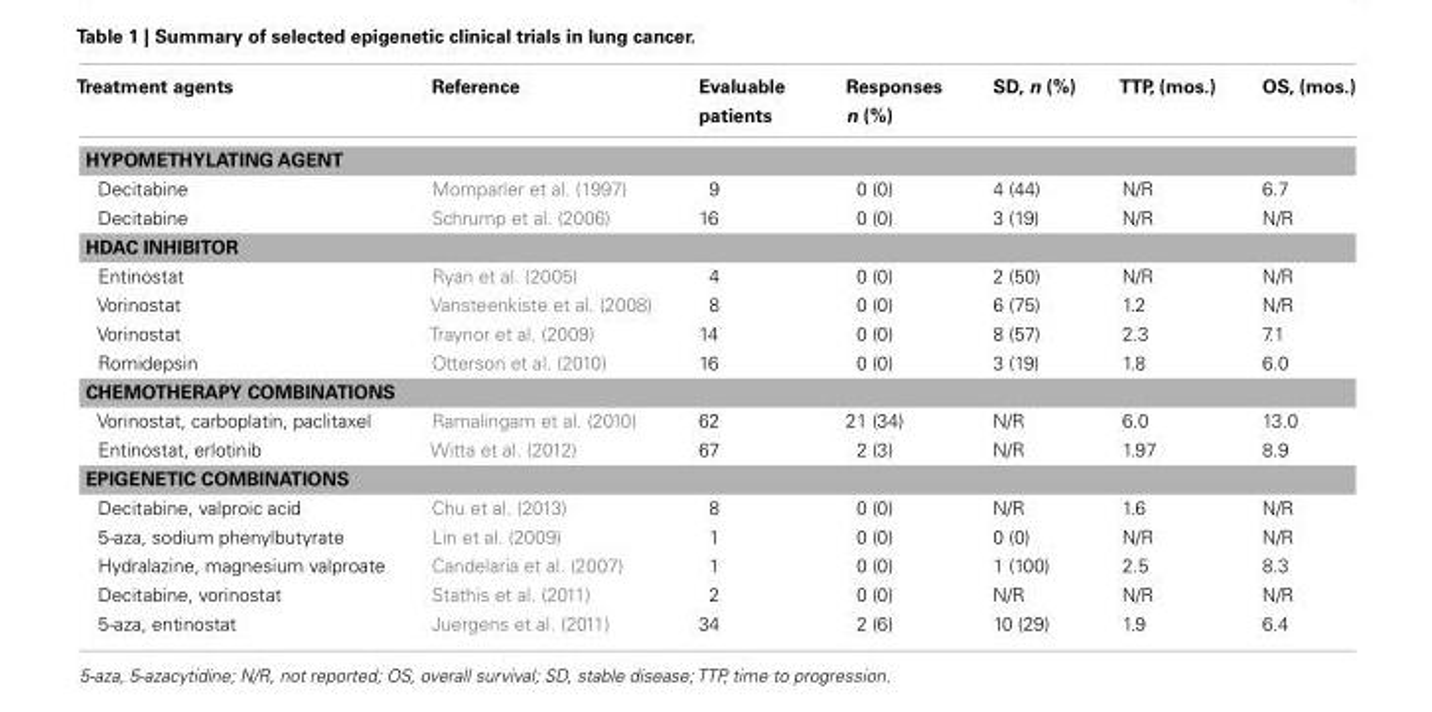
<table><thead><tr><td>Treatment agents</td><td>Reference</td><td>Evaluable patients</td><td>Responses n (%)</td><td>SD, n (%)</td><td>TTP, (mos.)</td><td>OS, (mos.)</td></tr></thead><tbody><tr><td colspan="7">HYPOMETHYLATING AGENT</td></tr><tr><td>Decitabine</td><td>Momparler et al. (1997)</td><td>9</td><td>0 (0)</td><td>4 (44)</td><td>N/R</td><td>6.7</td></tr><tr><td>Decitabine</td><td>Schrump et al. (2006)</td><td>16</td><td>0 (0)</td><td>3 (19)</td><td>N/R</td><td>N/R</td></tr><tr><td colspan="7">HDAC INHIBITOR</td></tr><tr><td>Entinostat</td><td>Ryan et al. (2005)</td><td>4</td><td>0 (0)</td><td>2 (50)</td><td>N/R</td><td>N/R</td></tr><tr><td>Vorinostat</td><td>Vansteenkiste et al. (2008)</td><td>8</td><td>0 (0)</td><td>6 (75)</td><td>1.2</td><td>N/R</td></tr><tr><td>Vorinostat</td><td>Traynor et al. (2009)</td><td>14</td><td>0 (0)</td><td>8 (57)</td><td>2.3</td><td>7.1</td></tr><tr><td>Romidepsin</td><td>Otterson et al. (2010)</td><td>16</td><td>0 (0)</td><td>3 (19)</td><td>1.8</td><td>6.0</td></tr><tr><td colspan="7">CHEMOTHERAPY COMBINATIONS</td></tr><tr><td>Vorinostat, carboplatin, paclitaxel</td><td>Ramalingam et al. (2010)</td><td>62</td><td>21 (34)</td><td>N/R</td><td>6.0</td><td>13.0</td></tr><tr><td>Entinostat, erlotinib</td><td>Witta et al. (2012)</td><td>67</td><td>2 (3)</td><td>N/R</td><td>1.97</td><td>8.9</td></tr><tr><td colspan="7">EPIGENETIC COMBINATIONS</td></tr><tr><td>Decitabine, valproic acid</td><td>Chu et al. (2013)</td><td>8</td><td>0 (0)</td><td>N/R</td><td>1.6</td><td>N/R</td></tr><tr><td>5-aza, sodium phenylbutyrate</td><td>Lin et al. (2009)</td><td>1</td><td>0 (0)</td><td>0 (0)</td><td>N/R</td><td>N/R</td></tr><tr><td>Hydralazine, magnesium valproate</td><td>Candelaria et al. (2007)</td><td>1</td><td>0 (0)</td><td>1 (100)</td><td>2.5</td><td>8.3</td></tr><tr><td>Decitabine, vorinostat</td><td>Stathis et al. (2011)</td><td>2</td><td>0 (0)</td><td>N/R</td><td>N/R</td><td>N/R</td></tr><tr><td>5-aza, entinostat</td><td>Juergens et al. (2011)</td><td>34</td><td>2 (6)</td><td>10 (29)</td><td>1.9</td><td>6.4</td></tr></tbody></table>